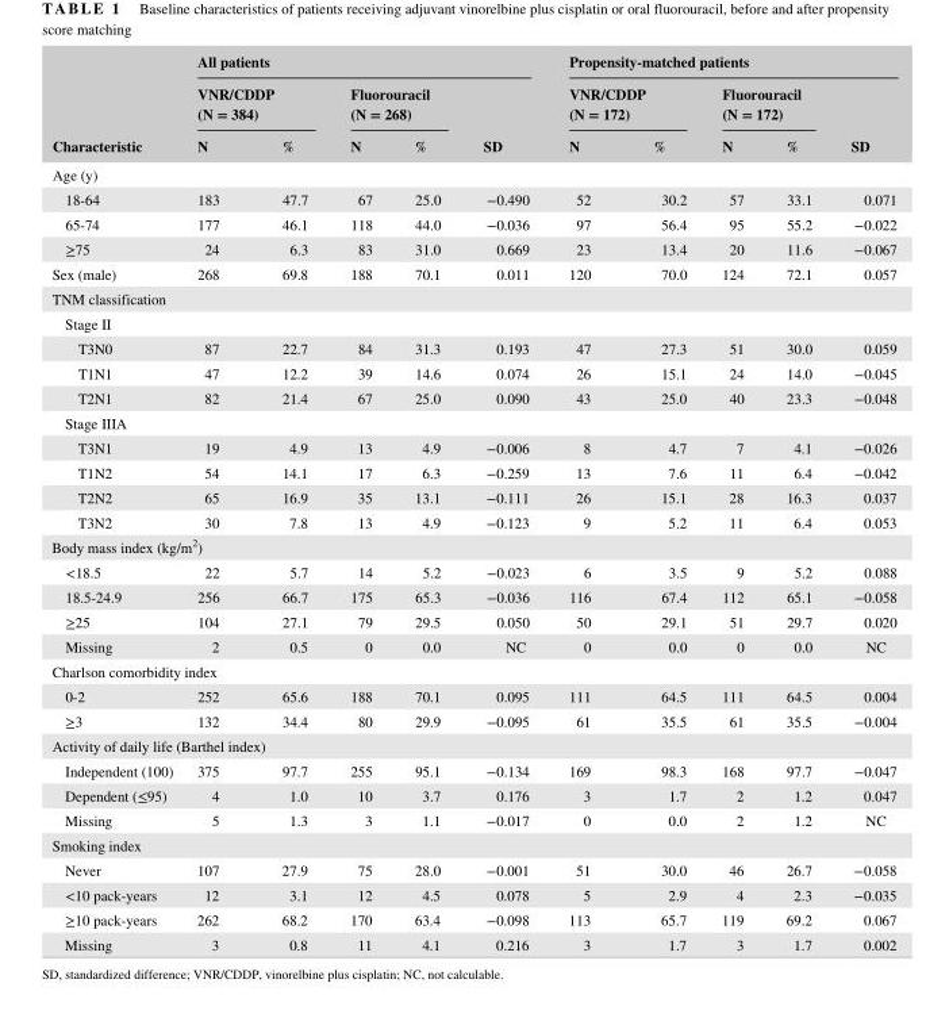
<table><thead><tr><td rowspan="3">Characteristic</td><td colspan="5">All patients</td><td colspan="5">Propensity- matched patients</td></tr><tr><td colspan="2">VNR/CDDP (N = 384)</td><td colspan="2">Fluorouracil (N = 268)</td><td rowspan="2">SD</td><td colspan="2">VNR/CDDP (N = 172)</td><td colspan="2">Fluorouracil (N = 172)</td><td rowspan="2">SD</td></tr><tr><td>N</td><td>%</td><td>N</td><td>%</td><td>N</td><td>%</td><td>N</td><td>%</td></tr></thead><tbody><tr><td colspan="11">Age (y)</td></tr><tr><td>18- 64</td><td>183</td><td>47.7</td><td>67</td><td>25.0</td><td>−0.490</td><td>52</td><td>30.2</td><td>57</td><td>33.1</td><td>0.071</td></tr><tr><td>65- 74</td><td>177</td><td>46.1</td><td>118</td><td>44.0</td><td>−0.036</td><td>97</td><td>56.4</td><td>95</td><td>55.2</td><td>−0.022</td></tr><tr><td>≥75</td><td>24</td><td>6.3</td><td>83</td><td>31.0</td><td>0.669</td><td>23</td><td>13.4</td><td>20</td><td>11.6</td><td>−0.067</td></tr><tr><td>Sex (male)</td><td>268</td><td>69.8</td><td>188</td><td>70.1</td><td>0.011</td><td>120</td><td>70.0</td><td>124</td><td>72.1</td><td>0.057</td></tr><tr><td colspan="11">TNM classification</td></tr><tr><td colspan="11">Stage II</td></tr><tr><td>T3N0</td><td>87</td><td>22.7</td><td>84</td><td>31.3</td><td>0.193</td><td>47</td><td>27.3</td><td>51</td><td>30.0</td><td>0.059</td></tr><tr><td>T1N1</td><td>47</td><td>12.2</td><td>39</td><td>14.6</td><td>0.074</td><td>26</td><td>15.1</td><td>24</td><td>14.0</td><td>−0.045</td></tr><tr><td>T2N1</td><td>82</td><td>21.4</td><td>67</td><td>25.0</td><td>0.090</td><td>43</td><td>25.0</td><td>40</td><td>23.3</td><td>−0.048</td></tr><tr><td colspan="11">Stage IIIA</td></tr><tr><td>T3N1</td><td>19</td><td>4.9</td><td>13</td><td>4.9</td><td>−0.006</td><td>8</td><td>4.7</td><td>7</td><td>4.1</td><td>−0.026</td></tr><tr><td>T1N2</td><td>54</td><td>14.1</td><td>17</td><td>6.3</td><td>−0.259</td><td>13</td><td>7.6</td><td>11</td><td>6.4</td><td>−0.042</td></tr><tr><td>T2N2</td><td>65</td><td>16.9</td><td>35</td><td>13.1</td><td>−0.111</td><td>26</td><td>15.1</td><td>28</td><td>16.3</td><td>0.037</td></tr><tr><td>T3N2</td><td>30</td><td>7.8</td><td>13</td><td>4.9</td><td>−0.123</td><td>9</td><td>5.2</td><td>11</td><td>6.4</td><td>0.053</td></tr><tr><td colspan="11">Body mass index (kg/m<sup>2</sup>)</td></tr><tr><td>&lt;18.5</td><td>22</td><td>5.7</td><td>14</td><td>5.2</td><td>−0.023</td><td>6</td><td>3.5</td><td>9</td><td>5.2</td><td>0.088</td></tr><tr><td>18.5- 24.9</td><td>256</td><td>66.7</td><td>175</td><td>65.3</td><td>−0.036</td><td>116</td><td>67.4</td><td>112</td><td>65.1</td><td>−0.058</td></tr><tr><td>≥25</td><td>104</td><td>27.1</td><td>79</td><td>29.5</td><td>0.050</td><td>50</td><td>29.1</td><td>51</td><td>29.7</td><td>0.020</td></tr><tr><td>Missing</td><td>2</td><td>0.5</td><td>0</td><td>0.0</td><td>NC</td><td>0</td><td>0.0</td><td>0</td><td>0.0</td><td>NC</td></tr><tr><td colspan="11">Charlson comorbidity index</td></tr><tr><td>0- 2</td><td>252</td><td>65.6</td><td>188</td><td>70.1</td><td>0.095</td><td>111</td><td>64.5</td><td>111</td><td>64.5</td><td>0.004</td></tr><tr><td>≥3</td><td>132</td><td>34.4</td><td>80</td><td>29.9</td><td>−0.095</td><td>61</td><td>35.5</td><td>61</td><td>35.5</td><td>−0.004</td></tr><tr><td colspan="11">Activity of daily life (Barthel index)</td></tr><tr><td>Independent (100)</td><td>375</td><td>97.7</td><td>255</td><td>95.1</td><td>−0.134</td><td>169</td><td>98.3</td><td>168</td><td>97.7</td><td>−0.047</td></tr><tr><td>Dependent (≤95)</td><td>4</td><td>1.0</td><td>10</td><td>3.7</td><td>0.176</td><td>3</td><td>1.7</td><td>2</td><td>1.2</td><td>0.047</td></tr><tr><td>Missing</td><td>5</td><td>1.3</td><td>3</td><td>1.1</td><td>−0.017</td><td>0</td><td>0.0</td><td>2</td><td>1.2</td><td>NC</td></tr><tr><td colspan="11">Smoking index</td></tr><tr><td>Never</td><td>107</td><td>27.9</td><td>75</td><td>28.0</td><td>−0.001</td><td>51</td><td>30.0</td><td>46</td><td>26.7</td><td>−0.058</td></tr><tr><td>&lt;10 pack- years</td><td>12</td><td>3.1</td><td>12</td><td>4.5</td><td>0.078</td><td>5</td><td>2.9</td><td>4</td><td>2.3</td><td>−0.035</td></tr><tr><td>≥10 pack- years</td><td>262</td><td>68.2</td><td>170</td><td>63.4</td><td>−0.098</td><td>113</td><td>65.7</td><td>119</td><td>69.2</td><td>0.067</td></tr><tr><td>Missing</td><td>3</td><td>0.8</td><td>11</td><td>4.1</td><td>0.216</td><td>3</td><td>1.7</td><td>3</td><td>1.7</td><td>0.002</td></tr></tbody></table>